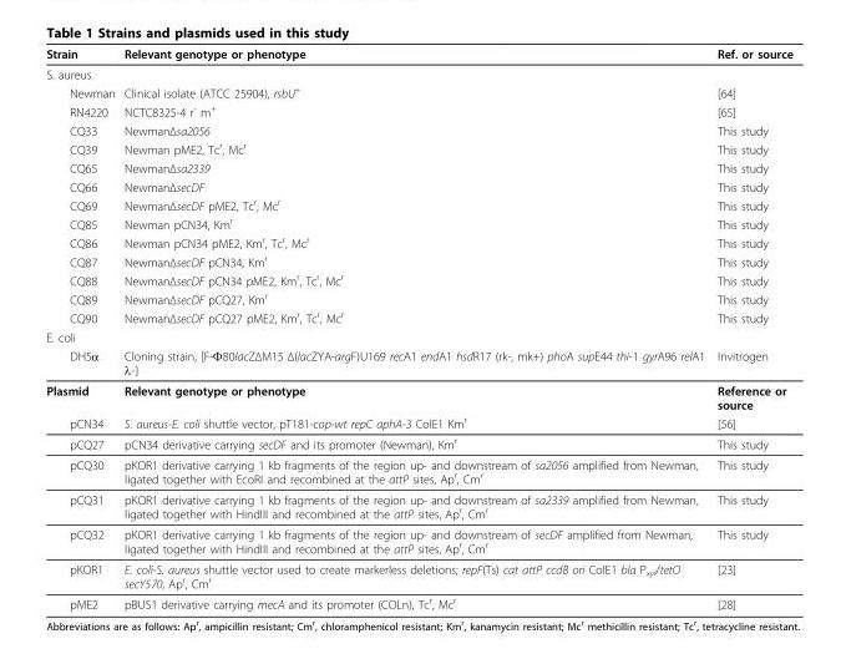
<table><thead><tr><td>Strain</td><td>Relevant genotype or phenotype</td><td>Ref. or source</td></tr></thead><tbody><tr><td colspan="3">S. aureus</td></tr><tr><td>Newman</td><td>Clinical isolate (ATCC 25904), rsbU<sup>+</sup></td><td>[64]</td></tr><tr><td>RN4220</td><td>NCTC8325-4 r<sup>-</sup> m<sup>+</sup></td><td>[65]</td></tr><tr><td>CQ33</td><td>NewmanΔsa2056</td><td>This study</td></tr><tr><td>CQ39</td><td>Newman pME2, Tc<sup>r</sup>, Mc<sup>r</sup></td><td>This study</td></tr><tr><td>CQ65</td><td>NewmanΔsa2339</td><td>This study</td></tr><tr><td>CQ66</td><td>NewmanΔsecDF</td><td>This study</td></tr><tr><td>CQ69</td><td>NewmanΔsecDF pME2, Tc<sup>r</sup>, Mc<sup>r</sup></td><td>This study</td></tr><tr><td>CQ85</td><td>Newman pCN34, Km<sup>r</sup></td><td>This study</td></tr><tr><td>CQ86</td><td>Newman pCN34 pME2, Km<sup>r</sup>, Tc<sup>r</sup>, Mc<sup>r</sup></td><td>This study</td></tr><tr><td>CQ87</td><td>NewmanΔsecDF pCN34, Km<sup>r</sup></td><td>This study</td></tr><tr><td>CQ88</td><td>NewmanΔsecDF pCN34 pME2, Km<sup>r</sup>, Tc<sup>r</sup>, Mc<sup>r</sup></td><td>This study</td></tr><tr><td>CQ89</td><td>NewmanΔsecDF pCQ27, Km<sup>r</sup></td><td>This study</td></tr><tr><td>CQ90</td><td>NewmanΔsecDF pCQ27 pME2, Km<sup>r</sup>, Tc<sup>r</sup>, Mc<sup>r</sup></td><td>This study</td></tr><tr><td colspan="3">E. coli</td></tr><tr><td>DH5α</td><td>Cloning strain, [F-Φ80lacZΔM15 Δ(lacZYA-argF)U169 recA1 endA1 hsdR17 (rk-, mk+) phoA supE44 thi-1 gyrA96 relA1 λ-]</td><td>Invitrogen</td></tr><tr><td>Plasmid</td><td>Relevant genotype or phenotype</td><td>Reference or source</td></tr><tr><td>pCN34</td><td>S. aureus-E. coli shuttle vector, pT181-cop-wt repC aphA-3 ColE1 Km<sup>r</sup></td><td>[56]</td></tr><tr><td>pCQ27</td><td>pCN34 derivative carrying secDF and its promoter (Newman), Km<sup>r</sup></td><td>This study</td></tr><tr><td>pCQ30</td><td>pKOR1 derivative carrying 1 kb fragments of the region up- and downstream of sa2056 amplified from Newman, ligated together with EcoRI and recombined at the attP sites, Ap<sup>r</sup>, Cm<sup>r</sup></td><td>This study</td></tr><tr><td>pCQ31</td><td>pKOR1 derivative carrying 1 kb fragments of the region up- and downstream of sa2339 amplified from Newman, ligated together with HindIII and recombined at the attP sites, Ap<sup>r</sup>, Cm<sup>r</sup></td><td>This study</td></tr><tr><td>pCQ32</td><td>pKOR1 derivative carrying 1 kb fragments of the region up- and downstream of secDF amplified from Newman, ligated together with HindIII and recombined at the attP sites, Ap<sup>r</sup>, Cm<sup>r</sup></td><td>This study</td></tr><tr><td>pKOR1</td><td>E. coli-S. aureus shuttle vector used to create markerless deletions; repF(Ts) cat attP ccdB ori ColE1 bla P<sub>xyl</sub>/tetO secY570, Ap<sup>r</sup>, Cm<sup>r</sup></td><td>[23]</td></tr><tr><td>pME2</td><td>pBUS1 derivative carrying mecA and its promoter (COLn), Tc<sup>r</sup>, Mc<sup>r</sup></td><td>[28]</td></tr></tbody></table>